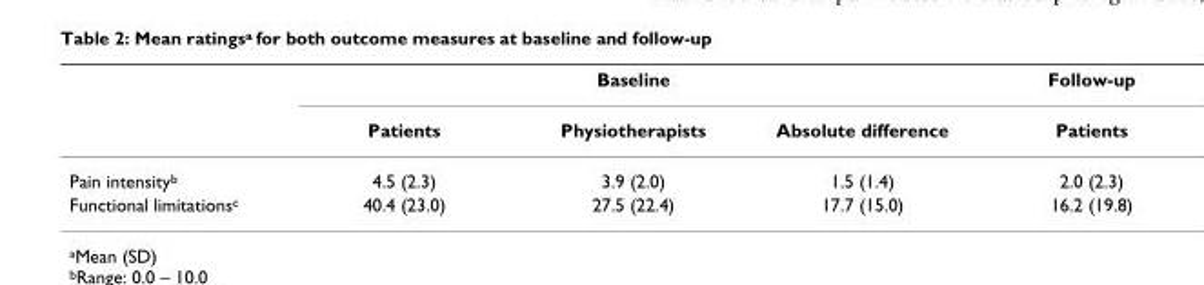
<table><thead><tr><td rowspan="2"></td><td colspan="3">Baseline</td><td rowspan="2">Follow-up Patients</td></tr><tr><td>Patients</td><td>Physiotherapists</td><td>Absolute difference</td></tr></thead><tbody><tr><td>Pain intensityb</td><td>4.5 (2.3)</td><td>3.9 (2.0)</td><td>1.5 (1.4)</td><td>2.0 (2.3)</td></tr><tr><td>Functional limitationsc</td><td>40.4 (23.0)</td><td>27.5 (22.4)</td><td>17.7 (15.0)</td><td>16.2 (19.8)</td></tr></tbody></table>